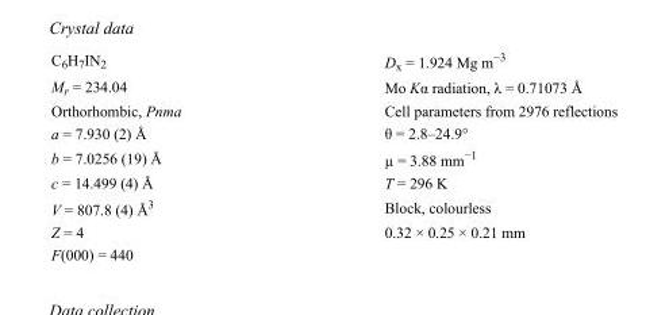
<table><tbody><tr><td>C<sub>6</sub>H<sub>7</sub>IN<sub>2</sub></td><td>D<sub>x</sub> = 1.924 Mg m<sup>−3</sup></td></tr><tr><td>M<sub>r</sub> = 234.04</td><td>Mo Kα radiation, λ = 0.71073 Å</td></tr><tr><td>Orthorhombic, Pnma</td><td>Cell parameters from 2976 reflections</td></tr><tr><td>a = 7.930 (2) Å</td><td>θ = 2.8–24.9°</td></tr><tr><td>b = 7.0256 (19) Å</td><td>µ = 3.88 mm<sup>−1</sup></td></tr><tr><td>c = 14.499 (4) Å</td><td>T = 296 K</td></tr><tr><td>V = 807.8 (4) Å<sup>3</sup></td><td>Block, colourless</td></tr><tr><td>Z = 4</td><td>0.32 × 0.25 × 0.21 mm</td></tr><tr><td>F(000) = 440</td><td></td></tr></tbody></table>